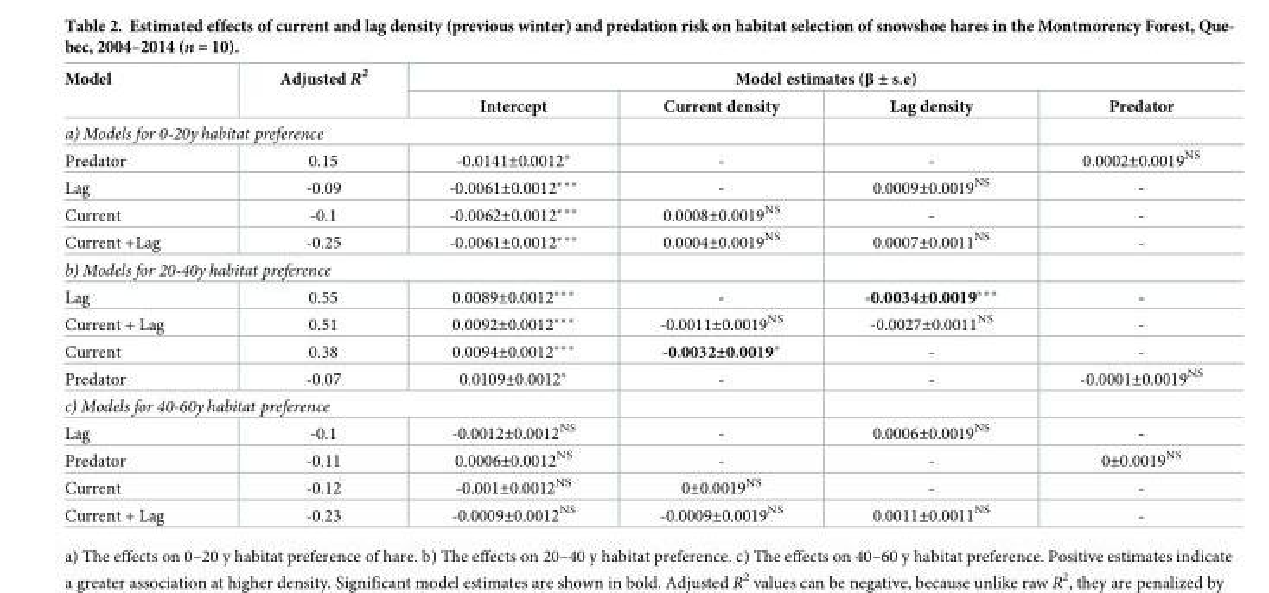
<table><thead><tr><td rowspan="2">Model</td><td rowspan="2">Adjusted R<sup>2</sup></td><td colspan="4">Model estimates (β ± s.e)</td></tr><tr><td>Intercept</td><td>Current density</td><td>Lag density</td><td>Predator</td></tr></thead><tbody><tr><td colspan="6">a) Models for 0-20y habitat preference</td></tr><tr><td>Predator</td><td>0.15</td><td>-0.0141±0.0012*</td><td>-</td><td>-</td><td>0.0002±0.0019<sup>NS</sup></td></tr><tr><td>Lag</td><td>-0.09</td><td>-0.0061±0.0012***</td><td>-</td><td>0.0009±0.0019<sup>NS</sup></td><td>-</td></tr><tr><td>Current</td><td>-0.1</td><td>-0.0062±0.0012***</td><td>0.0008±0.0019<sup>NS</sup></td><td>-</td><td>-</td></tr><tr><td>Current +Lag</td><td>-0.25</td><td>-0.0061±0.0012***</td><td>0.0004±0.0019<sup>NS</sup></td><td>0.0007±0.0011<sup>NS</sup></td><td>-</td></tr><tr><td colspan="6">b) Models for 20-40y habitat preference</td></tr><tr><td>Lag</td><td>0.55</td><td>0.0089±0.0012***</td><td>-</td><td>-0.0034±0.0019***</td><td>-</td></tr><tr><td>Current + Lag</td><td>0.51</td><td>0.0092±0.0012***</td><td>-0.0011±0.0019<sup>NS</sup></td><td>-0.0027±0.0011<sup>NS</sup></td><td>-</td></tr><tr><td>Current</td><td>0.38</td><td>0.0094±0.0012***</td><td>-0.0032±0.0019*</td><td>-</td><td>-</td></tr><tr><td>Predator</td><td>-0.07</td><td>0.0109±0.0012*</td><td>-</td><td>-</td><td>-0.0001±0.0019<sup>NS</sup></td></tr><tr><td colspan="6">c) Models for 40-60y habitat preference</td></tr><tr><td>Lag</td><td>-0.1</td><td>-0.0012±0.0012<sup>NS</sup></td><td>-</td><td>0.0006±0.0019<sup>NS</sup></td><td>-</td></tr><tr><td>Predator</td><td>-0.11</td><td>0.0006±0.0012<sup>NS</sup></td><td>-</td><td>-</td><td>0±0.0019<sup>NS</sup></td></tr><tr><td>Current</td><td>-0.12</td><td>-0.001±0.0012<sup>NS</sup></td><td>0±0.0019<sup>NS</sup></td><td>-</td><td>-</td></tr><tr><td>Current + Lag</td><td>-0.23</td><td>-0.0009±0.0012<sup>NS</sup></td><td>-0.0009±0.0019<sup>NS</sup></td><td>0.0011±0.0011<sup>NS</sup></td><td>-</td></tr></tbody></table>